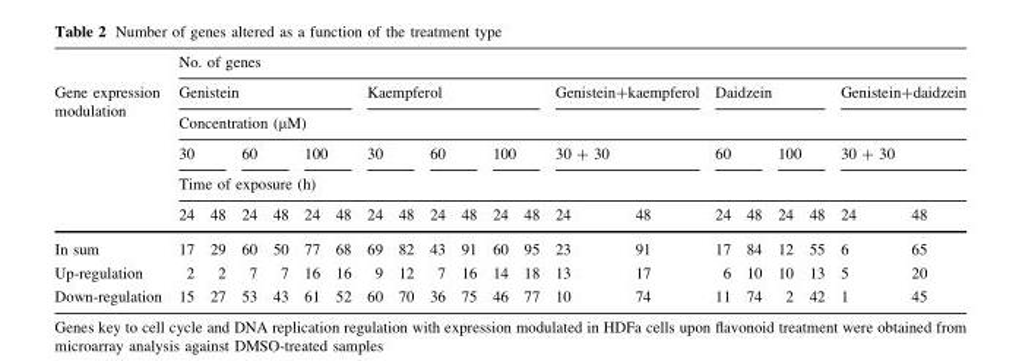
<table><thead><tr><td rowspan="6">Gene expression modulation</td><td colspan="20">No. of genes</td></tr><tr><td colspan="6">Genistein</td><td colspan="6">Kaempferol</td><td colspan="2">Genistein+kaempferol</td><td colspan="4">Daidzein</td><td colspan="2">Genistein+daidzein</td></tr><tr><td colspan="20">Concentration (μM)</td></tr><tr><td colspan="2">30</td><td colspan="2">60</td><td colspan="2">100</td><td colspan="2">30</td><td colspan="2">60</td><td colspan="2">100</td><td colspan="2">30 + 30</td><td colspan="2">60</td><td colspan="2">100</td><td colspan="2">30 + 30</td></tr><tr><td colspan="20">Time of exposure (h)</td></tr><tr><td>24</td><td>48</td><td>24</td><td>48</td><td>24</td><td>48</td><td>24</td><td>48</td><td>24</td><td>48</td><td>24</td><td>48</td><td>24</td><td>48</td><td>24</td><td>48</td><td>24</td><td>48</td><td>24</td><td>48</td></tr></thead><tbody><tr><td>In sum</td><td>17</td><td>29</td><td>60</td><td>50</td><td>77</td><td>68</td><td>69</td><td>82</td><td>43</td><td>91</td><td>60</td><td>95</td><td>23</td><td>91</td><td>17</td><td>84</td><td>12</td><td>55</td><td>6</td><td>65</td></tr><tr><td>Up-regulation</td><td>2</td><td>2</td><td>7</td><td>7</td><td>16</td><td>16</td><td>9</td><td>12</td><td>7</td><td>16</td><td>14</td><td>18</td><td>13</td><td>17</td><td>6</td><td>10</td><td>10</td><td>13</td><td>5</td><td>20</td></tr><tr><td>Down-regulation</td><td>15</td><td>27</td><td>53</td><td>43</td><td>61</td><td>52</td><td>60</td><td>70</td><td>36</td><td>75</td><td>46</td><td>77</td><td>10</td><td>74</td><td>11</td><td>74</td><td>2</td><td>42</td><td>1</td><td>45</td></tr></tbody></table>